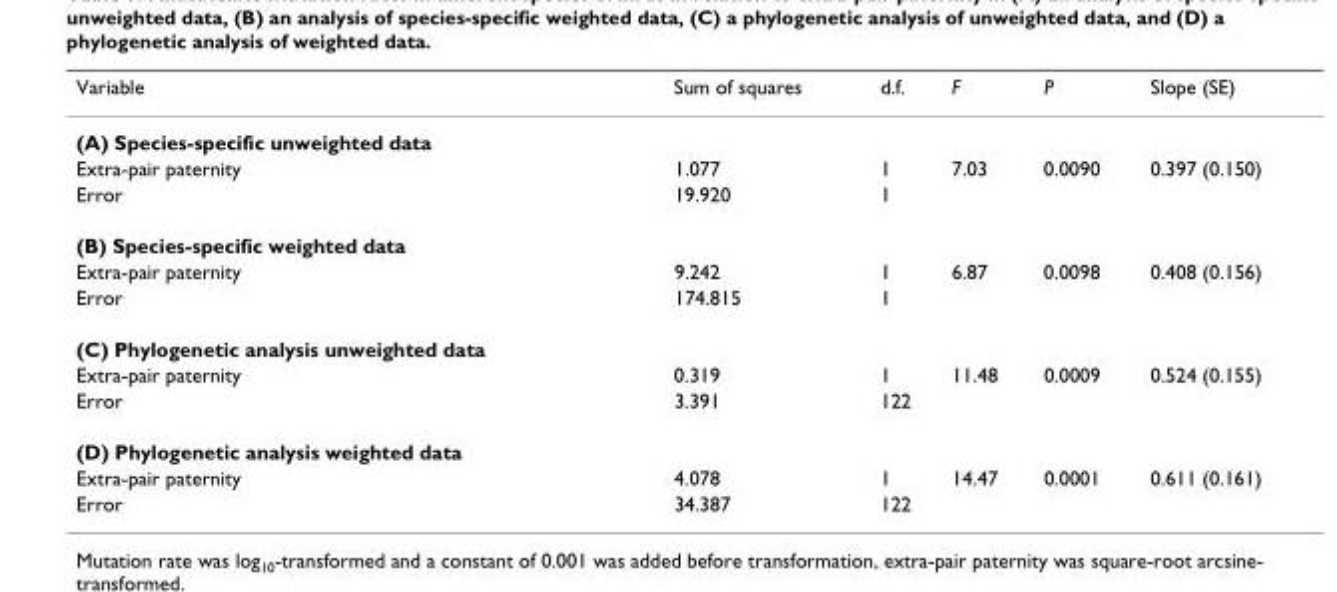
<table><thead><tr><td>Variable</td><td>Sum of squares</td><td>d.f.</td><td>F</td><td>P</td><td>Slope (SE)</td></tr></thead><tbody><tr><td colspan="6">(A) Species-specific unweighted data</td></tr><tr><td>Extra-pair paternity</td><td>1.077</td><td>1</td><td>7.03</td><td>0.0090</td><td>0.397 (0.150)</td></tr><tr><td>Error</td><td>19.920</td><td>1</td><td></td><td></td><td></td></tr><tr><td colspan="6">(B) Species-specific weighted data</td></tr><tr><td>Extra-pair paternity</td><td>9.242</td><td>1</td><td>6.87</td><td>0.0098</td><td>0.408 (0.156)</td></tr><tr><td>Error</td><td>174.815</td><td>1</td><td></td><td></td><td></td></tr><tr><td colspan="6">(C) Phylogenetic analysis unweighted data</td></tr><tr><td>Extra-pair paternity</td><td>0.319</td><td>1</td><td>11.48</td><td>0.0009</td><td>0.524 (0.155)</td></tr><tr><td>Error</td><td>3.391</td><td>122</td><td></td><td></td><td></td></tr><tr><td colspan="6">(D) Phylogenetic analysis weighted data</td></tr><tr><td>Extra-pair paternity</td><td>4.078</td><td>1</td><td>14.47</td><td>0.0001</td><td>0.611 (0.161)</td></tr><tr><td>Error</td><td>34.387</td><td>122</td><td></td><td></td><td></td></tr></tbody></table>